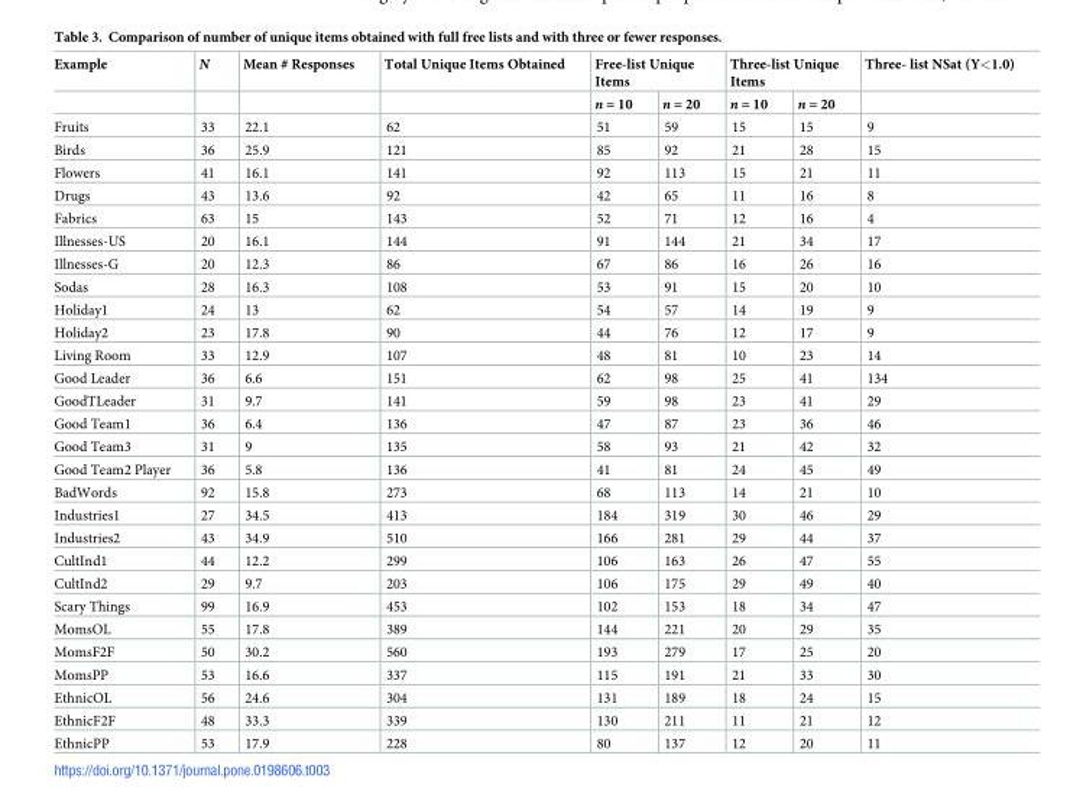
<table><thead><tr><td rowspan="2">Example</td><td rowspan="2">N</td><td rowspan="2">Mean # Responses</td><td rowspan="2">Total Unique Items Obtained</td><td colspan="2">Free-list Unique Items</td><td colspan="2">Three-list Unique Items</td><td rowspan="2">Three- list NSat (Y&lt;1.0)</td></tr><tr><td>n = 10</td><td>n = 20</td><td>n = 10</td><td>n = 20</td></tr></thead><tbody><tr><td>Fruits</td><td>33</td><td>22.1</td><td>62</td><td>51</td><td>59</td><td>15</td><td>15</td><td>9</td></tr><tr><td>Birds</td><td>36</td><td>25.9</td><td>121</td><td>85</td><td>92</td><td>21</td><td>28</td><td>15</td></tr><tr><td>Flowers</td><td>41</td><td>16.1</td><td>141</td><td>92</td><td>113</td><td>15</td><td>21</td><td>11</td></tr><tr><td>Drugs</td><td>43</td><td>13.6</td><td>92</td><td>42</td><td>65</td><td>11</td><td>16</td><td>8</td></tr><tr><td>Fabrics</td><td>63</td><td>15</td><td>143</td><td>52</td><td>71</td><td>12</td><td>16</td><td>4</td></tr><tr><td>Illnesses-US</td><td>20</td><td>16.1</td><td>144</td><td>91</td><td>144</td><td>21</td><td>34</td><td>17</td></tr><tr><td>Illnesses-G</td><td>20</td><td>12.3</td><td>86</td><td>67</td><td>86</td><td>16</td><td>26</td><td>16</td></tr><tr><td>Sodas</td><td>28</td><td>16.3</td><td>108</td><td>53</td><td>91</td><td>15</td><td>20</td><td>10</td></tr><tr><td>Holiday1</td><td>24</td><td>13</td><td>62</td><td>54</td><td>57</td><td>14</td><td>19</td><td>9</td></tr><tr><td>Holiday2</td><td>23</td><td>17.8</td><td>90</td><td>44</td><td>76</td><td>12</td><td>17</td><td>9</td></tr><tr><td>Living Room</td><td>33</td><td>12.9</td><td>107</td><td>48</td><td>81</td><td>10</td><td>23</td><td>14</td></tr><tr><td>Good Leader</td><td>36</td><td>6.6</td><td>151</td><td>62</td><td>98</td><td>25</td><td>41</td><td>134</td></tr><tr><td>GoodTLeader</td><td>31</td><td>9.7</td><td>141</td><td>59</td><td>98</td><td>23</td><td>41</td><td>29</td></tr><tr><td>Good Team1</td><td>36</td><td>6.4</td><td>136</td><td>47</td><td>87</td><td>23</td><td>36</td><td>46</td></tr><tr><td>Good Team3</td><td>31</td><td>9</td><td>135</td><td>58</td><td>93</td><td>21</td><td>42</td><td>32</td></tr><tr><td>Good Team2 Player</td><td>36</td><td>5.8</td><td>136</td><td>41</td><td>81</td><td>24</td><td>45</td><td>49</td></tr><tr><td>BadWords</td><td>92</td><td>15.8</td><td>273</td><td>68</td><td>113</td><td>14</td><td>21</td><td>10</td></tr><tr><td>Industries1</td><td>27</td><td>34.5</td><td>413</td><td>184</td><td>319</td><td>30</td><td>46</td><td>29</td></tr><tr><td>Industries2</td><td>43</td><td>34.9</td><td>510</td><td>166</td><td>281</td><td>29</td><td>44</td><td>37</td></tr><tr><td>CultInd1</td><td>44</td><td>12.2</td><td>299</td><td>106</td><td>163</td><td>26</td><td>47</td><td>55</td></tr><tr><td>CultInd2</td><td>29</td><td>9.7</td><td>203</td><td>106</td><td>175</td><td>29</td><td>49</td><td>40</td></tr><tr><td>Scary Things</td><td>99</td><td>16.9</td><td>453</td><td>102</td><td>153</td><td>18</td><td>34</td><td>47</td></tr><tr><td>MomsOL</td><td>55</td><td>17.8</td><td>389</td><td>144</td><td>221</td><td>20</td><td>29</td><td>35</td></tr><tr><td>MomsF2F</td><td>50</td><td>30.2</td><td>560</td><td>193</td><td>279</td><td>17</td><td>25</td><td>20</td></tr><tr><td>MomsPP</td><td>53</td><td>16.6</td><td>337</td><td>115</td><td>191</td><td>21</td><td>33</td><td>30</td></tr><tr><td>EthnicOL</td><td>56</td><td>24.6</td><td>304</td><td>131</td><td>189</td><td>18</td><td>24</td><td>15</td></tr><tr><td>EthnicF2F</td><td>48</td><td>33.3</td><td>339</td><td>130</td><td>211</td><td>11</td><td>21</td><td>12</td></tr><tr><td>EthnicPP</td><td>53</td><td>17.9</td><td>228</td><td>80</td><td>137</td><td>12</td><td>20</td><td>11</td></tr></tbody></table>